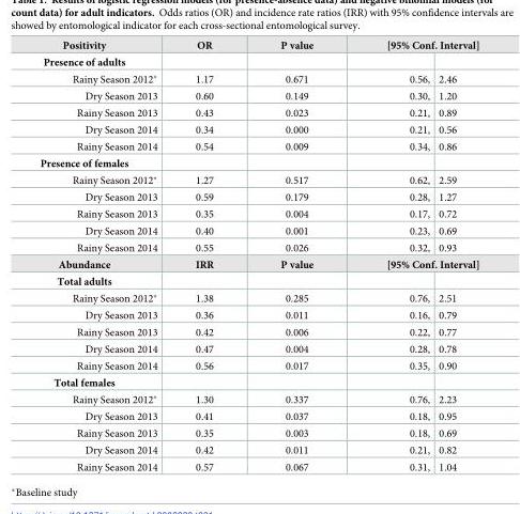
<table><tbody><tr><td>Positivity</td><td>OR</td><td>P value</td><td colspan="2">[95% Conf. Interval]</td></tr><tr><td colspan="5">Presence of adults</td></tr><tr><td>Rainy Season 2012*</td><td>1.17</td><td>0.671</td><td>0.56,</td><td>2.46</td></tr><tr><td>Dry Season 2013</td><td>0.60</td><td>0.149</td><td>0.30,</td><td>1.20</td></tr><tr><td>Rainy Season 2013</td><td>0.43</td><td>0.023</td><td>0.21,</td><td>0.89</td></tr><tr><td>Dry Season 2014</td><td>0.34</td><td>0.000</td><td>0.21,</td><td>0.56</td></tr><tr><td>Rainy Season 2014</td><td>0.54</td><td>0.009</td><td>0.34,</td><td>0.86</td></tr><tr><td colspan="5">Presence of females</td></tr><tr><td>Rainy Season 2012*</td><td>1.27</td><td>0.517</td><td>0.62,</td><td>2.59</td></tr><tr><td>Dry Season 2013</td><td>0.59</td><td>0.179</td><td>0.28,</td><td>1.27</td></tr><tr><td>Rainy Season 2013</td><td>0.35</td><td>0.004</td><td>0.17,</td><td>0.72</td></tr><tr><td>Dry Season 2014</td><td>0.40</td><td>0.001</td><td>0.23,</td><td>0.69</td></tr><tr><td>Rainy Season 2014</td><td>0.55</td><td>0.026</td><td>0.32,</td><td>0.93</td></tr><tr><td>Abundance</td><td>IRR</td><td>P value</td><td colspan="2">[95% Conf. Interval]</td></tr><tr><td colspan="5">Total adults</td></tr><tr><td>Rainy Season 2012*</td><td>1.38</td><td>0.285</td><td>0.76,</td><td>2.51</td></tr><tr><td>Dry Season 2013</td><td>0.36</td><td>0.011</td><td>0.16,</td><td>0.79</td></tr><tr><td>Rainy Season 2013</td><td>0.42</td><td>0.006</td><td>0.22,</td><td>0.77</td></tr><tr><td>Dry Season 2014</td><td>0.47</td><td>0.004</td><td>0.28,</td><td>0.78</td></tr><tr><td>Rainy Season 2014</td><td>0.56</td><td>0.017</td><td>0.35,</td><td>0.90</td></tr><tr><td colspan="5">Total females</td></tr><tr><td>Rainy Season 2012*</td><td>1.30</td><td>0.337</td><td>0.76,</td><td>2.23</td></tr><tr><td>Dry Season 2013</td><td>0.41</td><td>0.037</td><td>0.18,</td><td>0.95</td></tr><tr><td>Rainy Season 2013</td><td>0.35</td><td>0.003</td><td>0.18,</td><td>0.69</td></tr><tr><td>Dry Season 2014</td><td>0.42</td><td>0.011</td><td>0.21,</td><td>0.82</td></tr><tr><td>Rainy Season 2014</td><td>0.57</td><td>0.067</td><td>0.31,</td><td>1.04</td></tr></tbody></table>